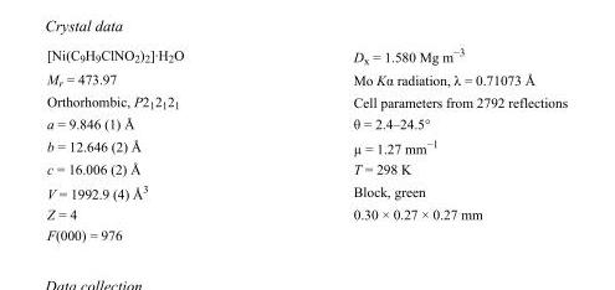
<table><tbody><tr><td>[Ni(C<sub>9</sub>H<sub>9</sub>ClNO<sub>2</sub>)<sub>2</sub>]·H<sub>2</sub>O</td><td>D<sub>x</sub> = 1.580 Mg m<sup>−3</sup></td></tr><tr><td>M<sub>r</sub> = 473.97</td><td>Mo Kα radiation, λ = 0.71073 Å</td></tr><tr><td>Orthorhombic, P2<sub>1</sub>2<sub>1</sub>2<sub>1</sub></td><td>Cell parameters from 2792 reflections</td></tr><tr><td>a = 9.846 (1) Å</td><td>θ = 2.4–24.5°</td></tr><tr><td>b = 12.646 (2) Å</td><td>µ = 1.27 mm<sup>−1</sup></td></tr><tr><td>c = 16.006 (2) Å</td><td>T = 298 K</td></tr><tr><td>V = 1992.9 (4) Å<sup>3</sup></td><td>Block, green</td></tr><tr><td>Z = 4</td><td>0.30 × 0.27 × 0.27 mm</td></tr><tr><td>F(000) = 976</td><td></td></tr></tbody></table>